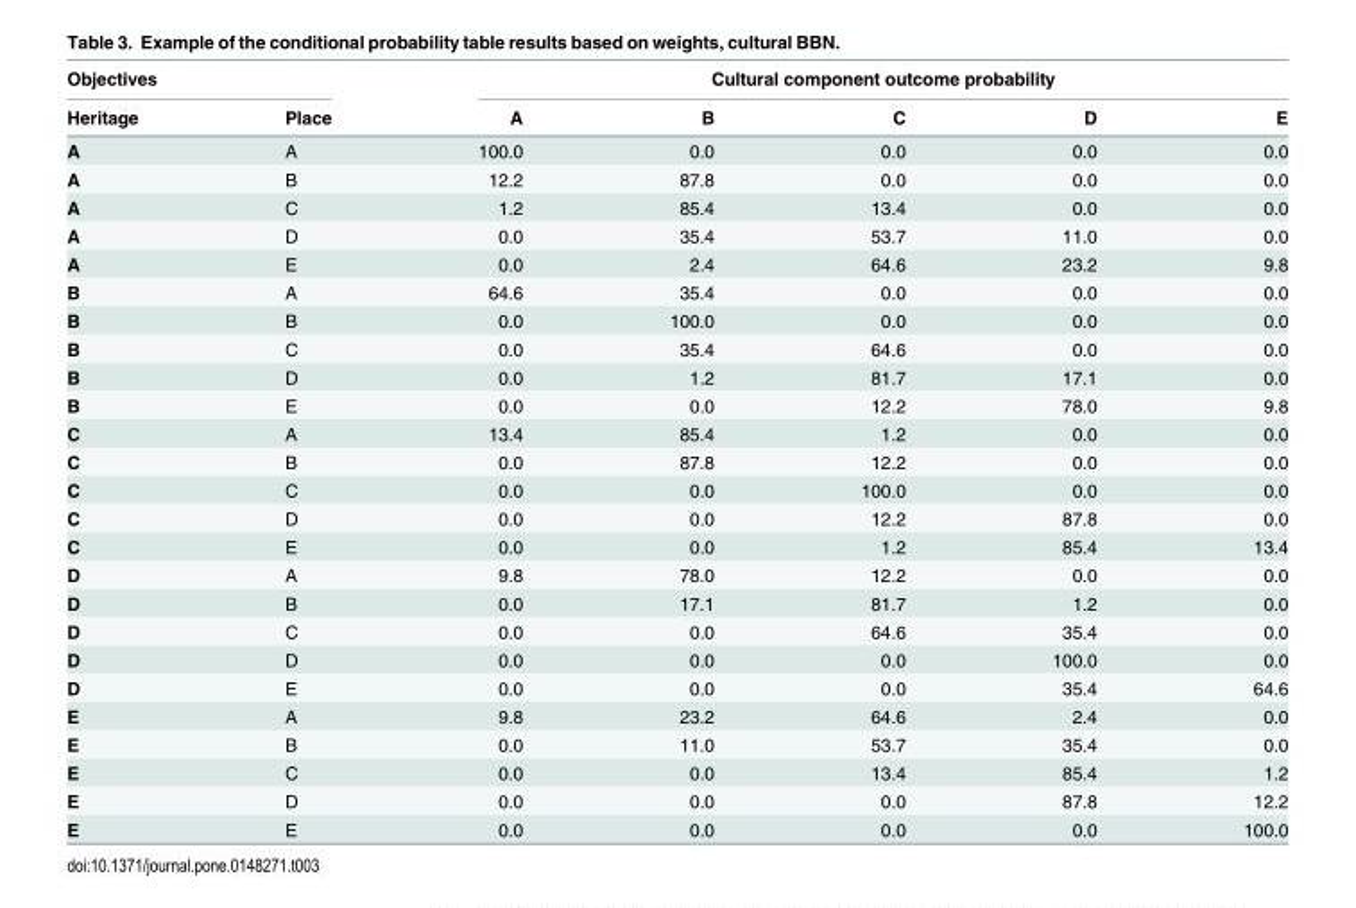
<table><thead><tr><td colspan="2">Objectives</td><td colspan="5">Cultural component outcome probability</td></tr><tr><td>Heritage</td><td>Place</td><td>A</td><td>B</td><td>C</td><td>D</td><td>E</td></tr></thead><tbody><tr><td>A</td><td>A</td><td>100.0</td><td>0.0</td><td>0.0</td><td>0.0</td><td>0.0</td></tr><tr><td>A</td><td>B</td><td>12.2</td><td>87.8</td><td>0.0</td><td>0.0</td><td>0.0</td></tr><tr><td>A</td><td>C</td><td>1.2</td><td>85.4</td><td>13.4</td><td>0.0</td><td>0.0</td></tr><tr><td>A</td><td>D</td><td>0.0</td><td>35.4</td><td>53.7</td><td>11.0</td><td>0.0</td></tr><tr><td>A</td><td>E</td><td>0.0</td><td>2.4</td><td>64.6</td><td>23.2</td><td>9.8</td></tr><tr><td>B</td><td>A</td><td>64.6</td><td>35.4</td><td>0.0</td><td>0.0</td><td>0.0</td></tr><tr><td>B</td><td>B</td><td>0.0</td><td>100.0</td><td>0.0</td><td>0.0</td><td>0.0</td></tr><tr><td>B</td><td>C</td><td>0.0</td><td>35.4</td><td>64.6</td><td>0.0</td><td>0.0</td></tr><tr><td>B</td><td>D</td><td>0.0</td><td>1.2</td><td>81.7</td><td>17.1</td><td>0.0</td></tr><tr><td>B</td><td>E</td><td>0.0</td><td>0.0</td><td>12.2</td><td>78.0</td><td>9.8</td></tr><tr><td>C</td><td>A</td><td>13.4</td><td>85.4</td><td>1.2</td><td>0.0</td><td>0.0</td></tr><tr><td>C</td><td>B</td><td>0.0</td><td>87.8</td><td>12.2</td><td>0.0</td><td>0.0</td></tr><tr><td>C</td><td>C</td><td>0.0</td><td>0.0</td><td>100.0</td><td>0.0</td><td>0.0</td></tr><tr><td>C</td><td>D</td><td>0.0</td><td>0.0</td><td>12.2</td><td>87.8</td><td>0.0</td></tr><tr><td>C</td><td>E</td><td>0.0</td><td>0.0</td><td>1.2</td><td>85.4</td><td>13.4</td></tr><tr><td>D</td><td>A</td><td>9.8</td><td>78.0</td><td>12.2</td><td>0.0</td><td>0.0</td></tr><tr><td>D</td><td>B</td><td>0.0</td><td>17.1</td><td>81.7</td><td>1.2</td><td>0.0</td></tr><tr><td>D</td><td>C</td><td>0.0</td><td>0.0</td><td>64.6</td><td>35.4</td><td>0.0</td></tr><tr><td>D</td><td>D</td><td>0.0</td><td>0.0</td><td>0.0</td><td>100.0</td><td>0.0</td></tr><tr><td>D</td><td>E</td><td>0.0</td><td>0.0</td><td>0.0</td><td>35.4</td><td>64.6</td></tr><tr><td>E</td><td>A</td><td>9.8</td><td>23.2</td><td>64.6</td><td>2.4</td><td>0.0</td></tr><tr><td>E</td><td>B</td><td>0.0</td><td>11.0</td><td>53.7</td><td>35.4</td><td>0.0</td></tr><tr><td>E</td><td>C</td><td>0.0</td><td>0.0</td><td>13.4</td><td>85.4</td><td>1.2</td></tr><tr><td>E</td><td>D</td><td>0.0</td><td>0.0</td><td>0.0</td><td>87.8</td><td>12.2</td></tr><tr><td>E</td><td>E</td><td>0.0</td><td>0.0</td><td>0.0</td><td>0.0</td><td>100.0</td></tr></tbody></table>